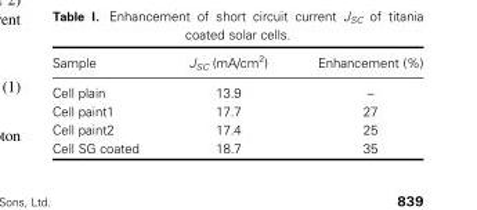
<table><thead><tr><td>Sample</td><td>J<sub>SC</sub> (mA/cm<sup>2</sup>)</td><td>Enhancement (%)</td></tr></thead><tbody><tr><td>Cell plain</td><td>13.9</td><td>–</td></tr><tr><td>Cell paint1</td><td>17.7</td><td>27</td></tr><tr><td>Cell paint2</td><td>17.4</td><td>25</td></tr><tr><td>Cell SG coated</td><td>18.7</td><td>35</td></tr></tbody></table>